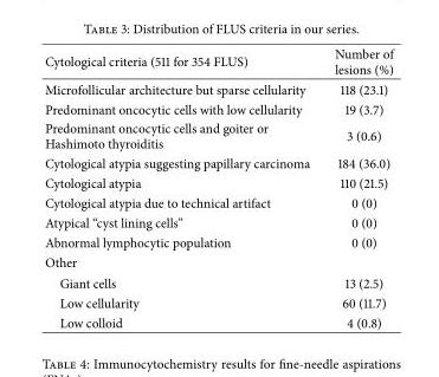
<table><thead><tr><td>Cytological criteria (511 for 354 FLUS)</td><td>Number of lesions (%)</td></tr></thead><tbody><tr><td>Microfollicular architecture but sparse cellularity</td><td>118 (23.1)</td></tr><tr><td>Predominant oncocytic cells with low cellularity</td><td>19 (3.7)</td></tr><tr><td>Predominant oncocytic cells and goiter or Hashimoto thyroiditis</td><td>3 (0.6)</td></tr><tr><td>Cytological atypia suggesting papillary carcinoma</td><td>184 (36.0)</td></tr><tr><td>Cytological atypia</td><td>110 (21.5)</td></tr><tr><td>Cytological atypia due to technical artifact</td><td>0 (0)</td></tr><tr><td>Atypical “cyst lining cells”</td><td>0 (0)</td></tr><tr><td>Abnormal lymphocytic population</td><td>0 (0)</td></tr><tr><td colspan="2">Other</td></tr><tr><td>Giant cells</td><td>13 (2.5)</td></tr><tr><td>Low cellularity</td><td>60 (11.7)</td></tr><tr><td>Low colloid</td><td>4 (0.8)</td></tr></tbody></table>